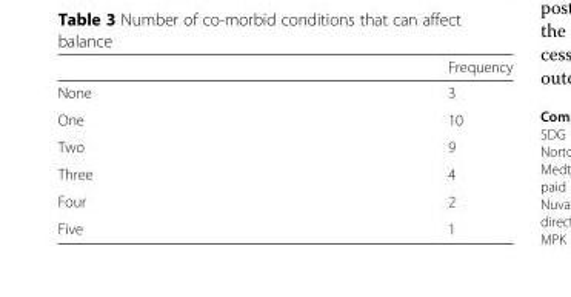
<table><thead><tr><td></td><td>Frequency</td></tr></thead><tbody><tr><td>None</td><td>3</td></tr><tr><td>One</td><td>10</td></tr><tr><td>Two</td><td>9</td></tr><tr><td>Three</td><td>4</td></tr><tr><td>Four</td><td>2</td></tr><tr><td>Five</td><td>1</td></tr></tbody></table>